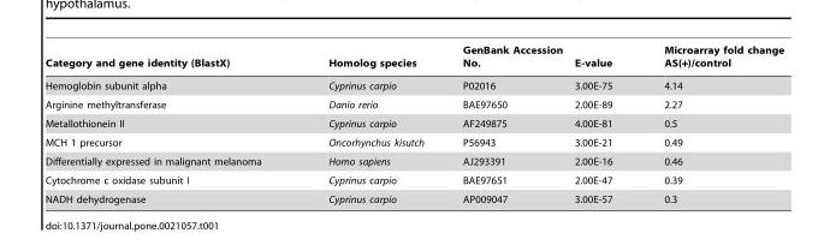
<table><thead><tr><td>Category and gene identity (BlastX)</td><td>Homolog species</td><td>GenBank Accession No.</td><td>E-value</td><td>Microarray fold change AS(+)/control</td></tr></thead><tbody><tr><td>Hemoglobin subunit alpha</td><td>Cyprinus carpio</td><td>P02016</td><td>3.00E-75</td><td>4.14</td></tr><tr><td>Arginine methyltransferase</td><td>Danio rerio</td><td>BAE97650</td><td>2.00E-89</td><td>2.27</td></tr><tr><td>Metallothionein II</td><td>Cyprinus carpio</td><td>AF249875</td><td>4.00E-81</td><td>0.5</td></tr><tr><td>MCH 1 precursor</td><td>Oncorhynchus kisutch</td><td>P56943</td><td>3.00E-21</td><td>0.49</td></tr><tr><td>Differentially expressed in malignant melanoma</td><td>Homo sapiens</td><td>AJ293391</td><td>2.00E-16</td><td>0.46</td></tr><tr><td>Cytochrome c oxidase subunit I</td><td>Cyprinus carpio</td><td>BAE97651</td><td>2.00E-47</td><td>0.39</td></tr><tr><td>NADH dehydrogenase</td><td>Cyprinus carpio</td><td>AP009047</td><td>3.00E-57</td><td>0.3</td></tr></tbody></table>